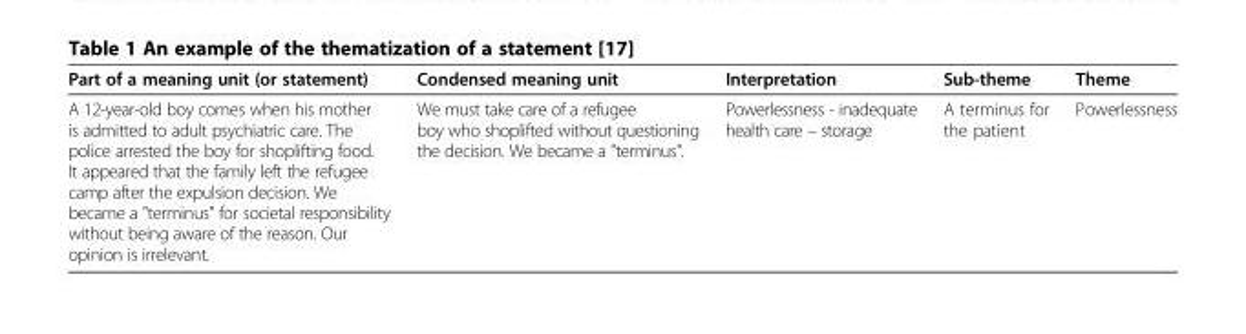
<table><thead><tr><td>Part of a meaning unit (or statement)</td><td>Condensed meaning unit</td><td>Interpretation</td><td>Sub-theme</td><td>Theme</td></tr></thead><tbody><tr><td>A 12-year-old boy comes when his mother is admitted to adult psychiatric care. The police arrested the boy for shoplifting food. It appeared that the family left the refugee camp after the expulsion decision. We became a &quot;terminus&quot; for societal responsibility without being aware of the reason. Our opinion is irrelevant.</td><td>We must take care of a refugee boy who shoplifted without questioning the decision. We became a &quot;terminus&quot;.</td><td>Powerlessness - inadequate health care – storage</td><td>A terminus for the patient</td><td>Powerlessness</td></tr></tbody></table>